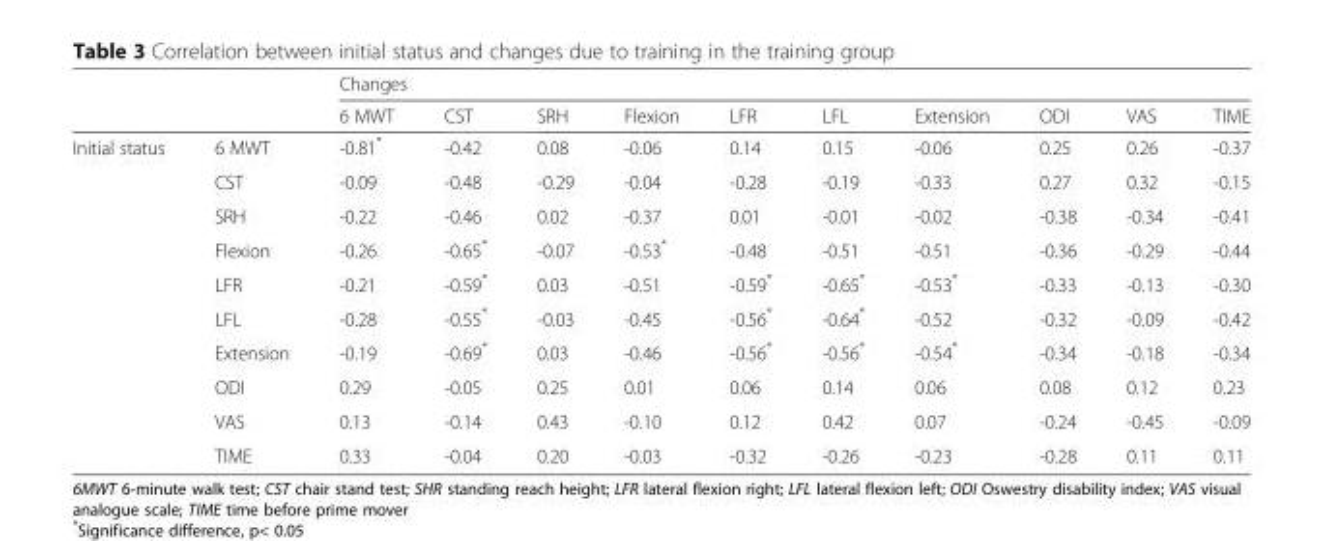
<table><thead><tr><td rowspan="2"></td><td rowspan="2"></td><td colspan="10">Changes</td></tr><tr><td>6 MWT</td><td>CST</td><td>SRH</td><td>Flexion</td><td>LFR</td><td>LFL</td><td>Extension</td><td>ODI</td><td>VAS</td><td>TIME</td></tr></thead><tbody><tr><td rowspan="10">Initial status</td><td>6 MWT</td><td>-0.81*</td><td>-0.42</td><td>0.08</td><td>-0.06</td><td>0.14</td><td>0.15</td><td>-0.06</td><td>0.25</td><td>0.26</td><td>-0.37</td></tr><tr><td>CST</td><td>-0.09</td><td>-0.48</td><td>-0.29</td><td>-0.04</td><td>-0.28</td><td>-0.19</td><td>-0.33</td><td>0.27</td><td>0.32</td><td>-0.15</td></tr><tr><td>SRH</td><td>-0.22</td><td>-0.46</td><td>0.02</td><td>-0.37</td><td>0.01</td><td>-0.01</td><td>-0.02</td><td>-0.38</td><td>-0.34</td><td>-0.41</td></tr><tr><td>Flexion</td><td>-0.26</td><td>-0.65*</td><td>-0.07</td><td>-0.53*</td><td>-0.48</td><td>-0.51</td><td>-0.51</td><td>-0.36</td><td>-0.29</td><td>-0.44</td></tr><tr><td>LFR</td><td>-0.21</td><td>-0.59*</td><td>0.03</td><td>-0.51</td><td>-0.59*</td><td>-0.65*</td><td>-0.53*</td><td>-0.33</td><td>-0.13</td><td>-0.30</td></tr><tr><td>LFL</td><td>-0.28</td><td>-0.55*</td><td>-0.03</td><td>-0.45</td><td>-0.56*</td><td>-0.64*</td><td>-0.52</td><td>-0.32</td><td>-0.09</td><td>-0.42</td></tr><tr><td>Extension</td><td>-0.19</td><td>-0.69*</td><td>0.03</td><td>-0.46</td><td>-0.56*</td><td>-0.56*</td><td>-0.54*</td><td>-0.34</td><td>-0.18</td><td>-0.34</td></tr><tr><td>ODI</td><td>0.29</td><td>-0.05</td><td>0.25</td><td>0.01</td><td>0.06</td><td>0.14</td><td>0.06</td><td>0.08</td><td>0.12</td><td>0.23</td></tr><tr><td>VAS</td><td>0.13</td><td>-0.14</td><td>0.43</td><td>-0.10</td><td>0.12</td><td>0.42</td><td>0.07</td><td>-0.24</td><td>-0.45</td><td>-0.09</td></tr><tr><td>TIME</td><td>0.33</td><td>-0.04</td><td>0.20</td><td>-0.03</td><td>-0.32</td><td>-0.26</td><td>-0.23</td><td>-0.28</td><td>0.11</td><td>0.11</td></tr></tbody></table>